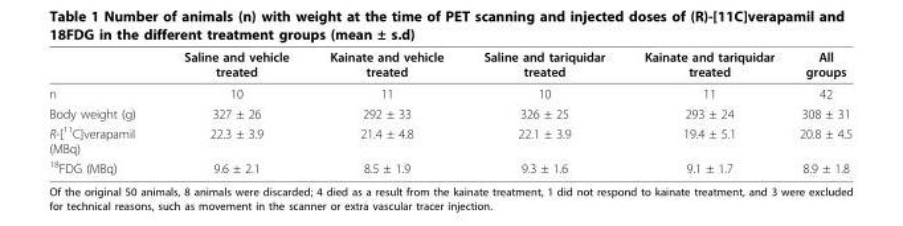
<table><thead><tr><td></td><td>Saline and vehicle treated</td><td>Kainate and vehicle treated</td><td>Saline and tariquidar treated</td><td>Kainate and tariquidar treated</td><td>All groups</td></tr></thead><tbody><tr><td>n</td><td>10</td><td>11</td><td>10</td><td>11</td><td>42</td></tr><tr><td>Body weight (g)</td><td>327 ± 26</td><td>292 ± 33</td><td>326 ± 25</td><td>293 ± 24</td><td>308 ± 31</td></tr><tr><td>R-[<sup>11</sup>C]verapamil (MBq)</td><td>22.3 ± 3.9</td><td>21.4 ± 4.8</td><td>22.1 ± 3.9</td><td>19.4 ± 5.1</td><td>20.8 ± 4.5</td></tr><tr><td><sup>18</sup>FDG (MBq)</td><td>9.6 ± 2.1</td><td>8.5 ± 1.9</td><td>9.3 ± 1.6</td><td>9.1 ± 1.7</td><td>8.9 ± 1.8</td></tr></tbody></table>